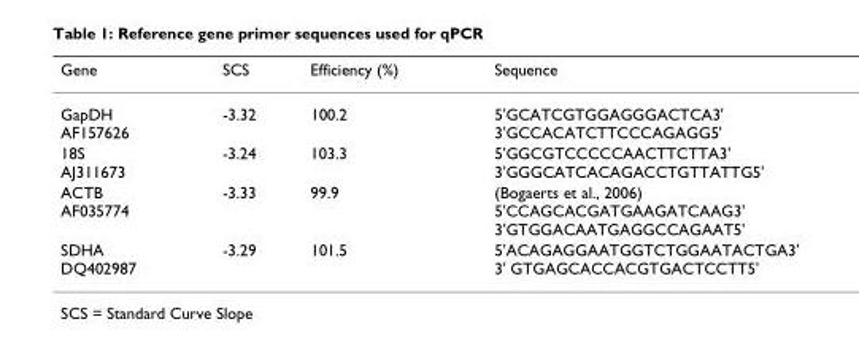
<table><thead><tr><td>Gene</td><td>SCS</td><td>Efficiency (%)</td><td>Sequence</td></tr></thead><tbody><tr><td>GapDH AF157626</td><td>-3.32</td><td>100.2</td><td>5&#x27;GCATCGTGGAGGGACTCA3&#x27; 3&#x27;GCCACATCTTCCCAGAGG5&#x27;</td></tr><tr><td>18S AJ311673</td><td>-3.24</td><td>103.3</td><td>5&#x27;GGCGTCCCCCAACTTCTTA3&#x27; 3&#x27;GGGCATCACAGACCTGTTATTG5&#x27;</td></tr><tr><td>ACTB AF035774</td><td>-3.33</td><td>99.9</td><td>(Bogaerts et al., 2006) 5&#x27;CCAGCACGATGAAGATCAAG3&#x27; 3&#x27;GTGGACAATGAGGCCAGAAT5&#x27;</td></tr><tr><td>SDHA DQ402987</td><td>-3.29</td><td>101.5</td><td>5&#x27;ACAGAGGAATGGTCTGGAATACTGA3&#x27; 3&#x27; GTGAGCACCACGTGACTCCTT5&#x27;</td></tr></tbody></table>